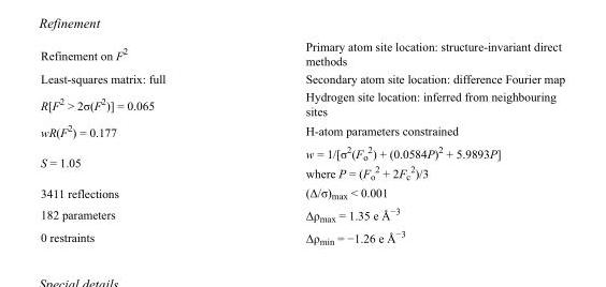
<table><tbody><tr><td>Refinement on F<sup>2</sup></td><td>Primary atom site location: structure-invariant direct methods</td></tr><tr><td>Least-squares matrix: full</td><td>Secondary atom site location: difference Fourier map</td></tr><tr><td>R[F<sup>2</sup> &gt; 2σ(F<sup>2</sup>)] = 0.065</td><td>Hydrogen site location: inferred from neighbouring sites</td></tr><tr><td>wR(F<sup>2</sup>) = 0.177</td><td>H-atom parameters constrained</td></tr><tr><td>S = 1.05</td><td>w = 1/[σ<sup>2</sup>(F<sub>o</sub> <sup>2</sup>) + (0.0584P)<sup>2</sup> + 5.9893P] where P = (F<sub>o</sub> <sup>2</sup> + 2F<sub>c</sub> <sup>2</sup>)/3</td></tr><tr><td>3411 reflections</td><td>(Δ/σ)<sub>max</sub> &lt; 0.001</td></tr><tr><td>182 parameters</td><td>Δρ<sub>max</sub> = 1.35 e Å<sup>−3</sup></td></tr><tr><td>0 restraints</td><td>Δρ<sub>min</sub> = −1.26 e Å<sup>−3</sup></td></tr></tbody></table>